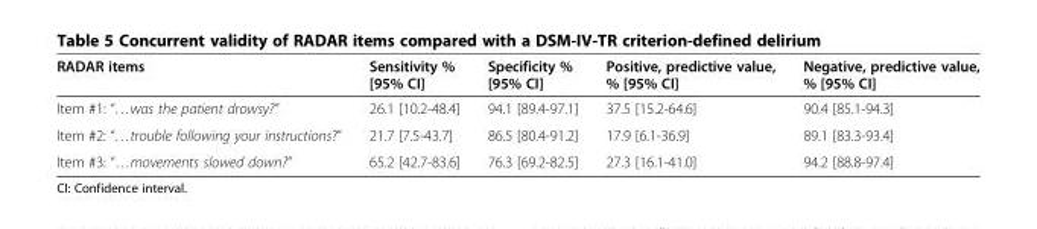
<table><thead><tr><td>RADAR items</td><td>Sensitivity % [95% CI]</td><td>Specificity % [95% CI]</td><td>Positive, predictive value, % [95% CI]</td><td>Negative, predictive value, % [95% CI]</td></tr></thead><tbody><tr><td>Item #1: “…was the patient drowsy?”</td><td>26.1 [10.2-48.4]</td><td>94.1 [89.4-97.1]</td><td>37.5 [15.2-64.6]</td><td>90.4 [85.1-94.3]</td></tr><tr><td>Item #2: “…trouble following your instructions?”</td><td>21.7 [7.5-43.7]</td><td>86.5 [80.4-91.2]</td><td>17.9 [6.1-36.9]</td><td>89.1 [83.3-93.4]</td></tr><tr><td>Item #3: “…movements slowed down?”</td><td>65.2 [42.7-83.6]</td><td>76.3 [69.2-82.5]</td><td>27.3 [16.1-41.0]</td><td>94.2 [88.8-97.4]</td></tr></tbody></table>